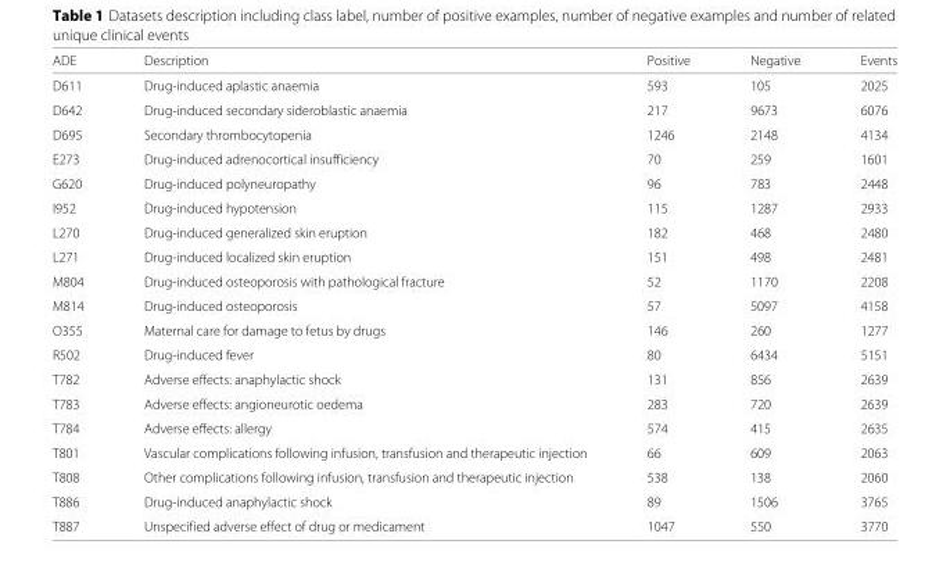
<table><thead><tr><td>ADE</td><td>Description</td><td>Positive</td><td>Negative</td><td>Events</td></tr></thead><tbody><tr><td>D611</td><td>Drug-induced aplastic anaemia</td><td>593</td><td>105</td><td>2025</td></tr><tr><td>D642</td><td>Drug-induced secondary sideroblastic anaemia</td><td>217</td><td>9673</td><td>6076</td></tr><tr><td>D695</td><td>Secondary thrombocytopenia</td><td>1246</td><td>2148</td><td>4134</td></tr><tr><td>E273</td><td>Drug-induced adrenocortical insufficiency</td><td>70</td><td>259</td><td>1601</td></tr><tr><td>G620</td><td>Drug-induced polyneuropathy</td><td>96</td><td>783</td><td>2448</td></tr><tr><td>I952</td><td>Drug-induced hypotension</td><td>115</td><td>1287</td><td>2933</td></tr><tr><td>L270</td><td>Drug-induced generalized skin eruption</td><td>182</td><td>468</td><td>2480</td></tr><tr><td>L271</td><td>Drug-induced localized skin eruption</td><td>151</td><td>498</td><td>2481</td></tr><tr><td>M804</td><td>Drug-induced osteoporosis with pathological fracture</td><td>52</td><td>1170</td><td>2208</td></tr><tr><td>M814</td><td>Drug-induced osteoporosis</td><td>57</td><td>5097</td><td>4158</td></tr><tr><td>O355</td><td>Maternal care for damage to fetus by drugs</td><td>146</td><td>260</td><td>1277</td></tr><tr><td>R502</td><td>Drug-induced fever</td><td>80</td><td>6434</td><td>5151</td></tr><tr><td>T782</td><td>Adverse effects: anaphylactic shock</td><td>131</td><td>856</td><td>2639</td></tr><tr><td>T783</td><td>Adverse effects: angioneurotic oedema</td><td>283</td><td>720</td><td>2639</td></tr><tr><td>T784</td><td>Adverse effects: allergy</td><td>574</td><td>415</td><td>2635</td></tr><tr><td>T801</td><td>Vascular complications following infusion, transfusion and therapeutic injection</td><td>66</td><td>609</td><td>2063</td></tr><tr><td>T808</td><td>Other complications following infusion, transfusion and therapeutic injection</td><td>538</td><td>138</td><td>2060</td></tr><tr><td>T886</td><td>Drug-induced anaphylactic shock</td><td>89</td><td>1506</td><td>3765</td></tr><tr><td>T887</td><td>Unspecified adverse effect of drug or medicament</td><td>1047</td><td>550</td><td>3770</td></tr></tbody></table>